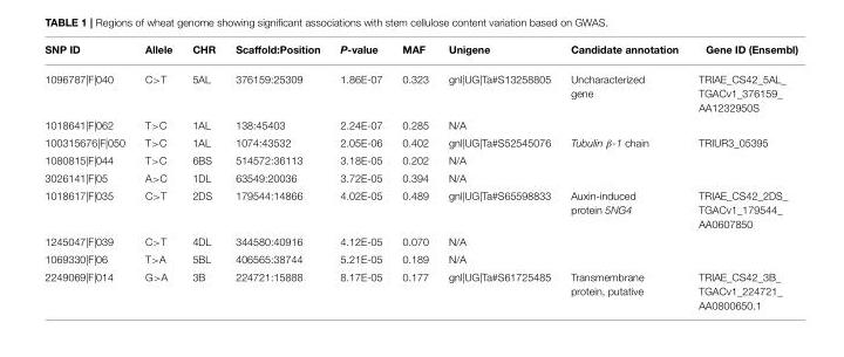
<table><thead><tr><td>SNP ID</td><td>Allele</td><td>CHR</td><td>Scaffold:Position</td><td>P-value</td><td>MAF</td><td>Unigene</td><td>Candidate annotation</td><td>Gene ID (Ensembl)</td></tr></thead><tbody><tr><td>1096787|F|040</td><td>C&gt;T</td><td>5AL</td><td>376159:25309</td><td>1.86E-07</td><td>0.323</td><td>gnl|UG|Ta#S13258805</td><td>Uncharacterized gene</td><td>TRIAE_CS42_5AL_ TGACv1_376159_ AA1232950S</td></tr><tr><td>1018641|F|062</td><td>T&gt;C</td><td>1AL</td><td>138:45403</td><td>2.24E-07</td><td>0.285</td><td>N/A</td><td></td><td></td></tr><tr><td>100315676|F|050</td><td>T&gt;C</td><td>1AL</td><td>1074:43532</td><td>2.05E-06</td><td>0.402</td><td>gnl|UG|Ta#S52545076</td><td>Tubulin β-1 chain</td><td>TRIUR3_05395</td></tr><tr><td>1080815|F|044</td><td>T&gt;C</td><td>6BS</td><td>514572:36113</td><td>3.18E-05</td><td>0.202</td><td>N/A</td><td></td><td></td></tr><tr><td>3026141|F|05</td><td>A&gt;C</td><td>1DL</td><td>63549:20036</td><td>3.72E-05</td><td>0.394</td><td>N/A</td><td></td><td></td></tr><tr><td>1018617|F|035</td><td>C&gt;T</td><td>2DS</td><td>179544:14866</td><td>4.02E-05</td><td>0.489</td><td>gnl|UG|Ta#S65598833</td><td>Auxin-induced protein 5NG4</td><td>TRIAE_CS42_2DS_ TGACv1_179544_ AA0607850</td></tr><tr><td>1245047|F|039</td><td>C&gt;T</td><td>4DL</td><td>344580:40916</td><td>4.12E-05</td><td>0.070</td><td>N/A</td><td></td><td></td></tr><tr><td>1069330|F|06</td><td>T&gt;A</td><td>5BL</td><td>406565:38744</td><td>5.21E-05</td><td>0.189</td><td>N/A</td><td></td><td></td></tr><tr><td>2249069|F|014</td><td>G&gt;A</td><td>3B</td><td>224721:15888</td><td>8.17E-05</td><td>0.177</td><td>gnl|UG|Ta#S61725485</td><td>Transmembrane protein, putative</td><td>TRIAE_CS42_3B_ TGACv1_224721_ AA0800650.1</td></tr></tbody></table>